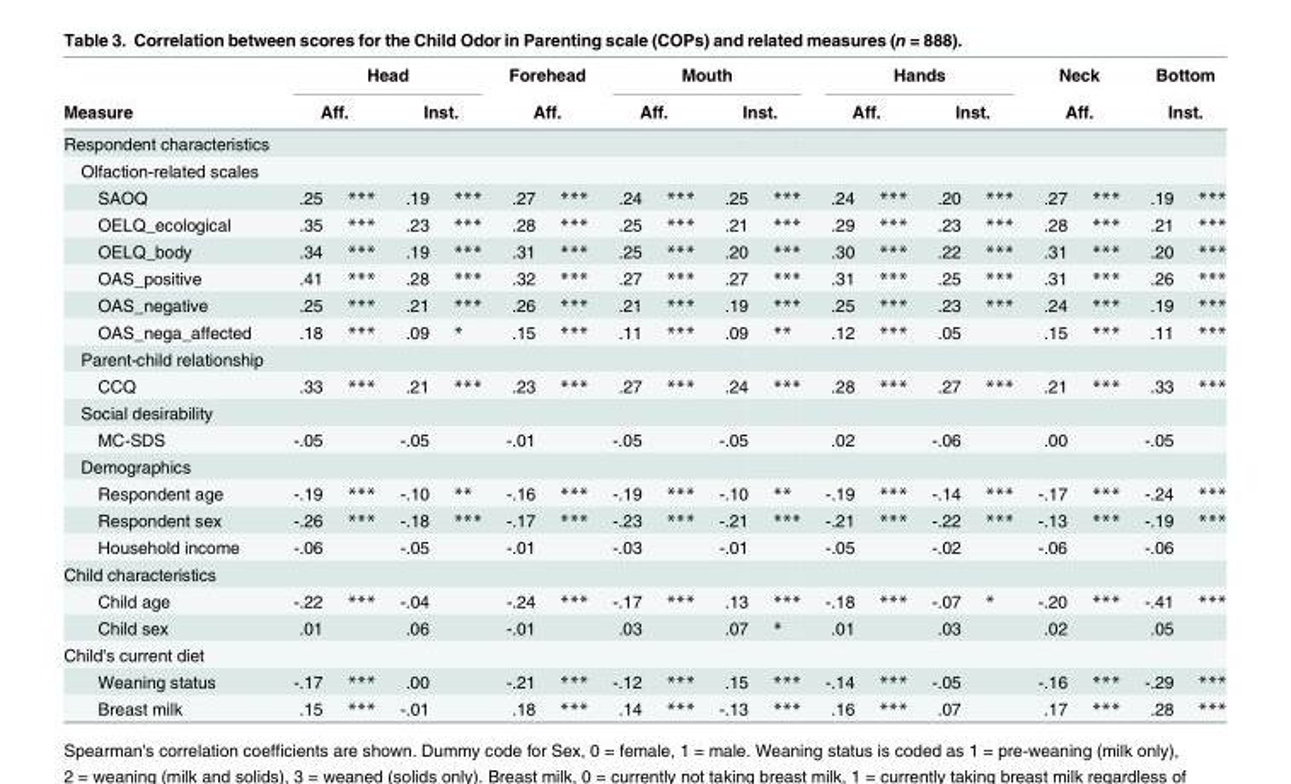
<table><thead><tr><td rowspan="3">Measure Respondent characteristics</td><td colspan="4">Head</td><td rowspan="2" colspan="2">Forehead Aff.</td><td colspan="4">Mouth</td><td colspan="4">Hands</td><td rowspan="2" colspan="2">Neck Aff.</td><td rowspan="2" colspan="2">Bottom Inst.</td></tr><tr><td colspan="2">Aff.</td><td colspan="2">Inst.</td><td colspan="2">Aff.</td><td colspan="2">Inst.</td><td colspan="2">Aff.</td><td colspan="2">Inst.</td></tr><tr><td></td><td></td><td></td><td></td><td></td><td></td><td></td><td></td><td></td><td></td><td></td><td></td><td></td><td></td><td></td><td></td><td></td><td></td></tr></thead><tbody><tr><td colspan="19">Olfaction-related scales</td></tr><tr><td>SAOQ</td><td>.25</td><td>***</td><td>.19</td><td>***</td><td>.27</td><td>***</td><td>.24</td><td>***</td><td>.25</td><td>***</td><td>.24</td><td>***</td><td>.20</td><td>***</td><td>.27</td><td>***</td><td>.19</td><td>***</td></tr><tr><td>OELQ_ecological</td><td>.35</td><td>***</td><td>.23</td><td>***</td><td>.28</td><td>***</td><td>.25</td><td>***</td><td>.21</td><td>***</td><td>.29</td><td>***</td><td>.23</td><td>***</td><td>.28</td><td>***</td><td>.21</td><td>***</td></tr><tr><td>OELQ_body</td><td>.34</td><td>***</td><td>.19</td><td>***</td><td>.31</td><td>***</td><td>.25</td><td>***</td><td>.20</td><td>***</td><td>.30</td><td>***</td><td>.22</td><td>***</td><td>.31</td><td>***</td><td>.20</td><td>***</td></tr><tr><td>OAS_positive</td><td>.41</td><td>***</td><td>.28</td><td>***</td><td>.32</td><td>***</td><td>.27</td><td>***</td><td>.27</td><td>***</td><td>.31</td><td>***</td><td>.25</td><td>***</td><td>.31</td><td>***</td><td>.26</td><td>***</td></tr><tr><td>OAS_negative</td><td>.25</td><td>***</td><td>.21</td><td>***</td><td>.26</td><td>***</td><td>.21</td><td>***</td><td>.19</td><td>***</td><td>.25</td><td>***</td><td>.23</td><td>***</td><td>.24</td><td>***</td><td>.19</td><td>***</td></tr><tr><td>OAS_nega_affected</td><td>.18</td><td>***</td><td>.09</td><td>*</td><td>.15</td><td>***</td><td>.11</td><td>***</td><td>.09</td><td>**</td><td>.12</td><td>***</td><td>.05</td><td></td><td>.15</td><td>***</td><td>.11</td><td>***</td></tr><tr><td colspan="19">Parent-child relationship</td></tr><tr><td>CCQ</td><td>.33</td><td>***</td><td>.21</td><td>***</td><td>.23</td><td>***</td><td>.27</td><td>***</td><td>.24</td><td>***</td><td>.28</td><td>***</td><td>.27</td><td>***</td><td>.21</td><td>***</td><td>.33</td><td>***</td></tr><tr><td colspan="19">Social desirability</td></tr><tr><td>MC-SDS</td><td>-.05</td><td></td><td>-.05</td><td></td><td>-.01</td><td></td><td>-.05</td><td></td><td>-.05</td><td></td><td>.02</td><td></td><td>-.06</td><td></td><td>.00</td><td></td><td>-.05</td><td></td></tr><tr><td colspan="19">Demographics</td></tr><tr><td>Respondent age</td><td>-.19</td><td>***</td><td>-.10</td><td>**</td><td>-.16</td><td>***</td><td>-.19</td><td>***</td><td>-.10</td><td>**</td><td>-.19</td><td>***</td><td>-.14</td><td>***</td><td>-.17</td><td>***</td><td>-.24</td><td>***</td></tr><tr><td>Respondent sex</td><td>-.26</td><td>***</td><td>-.18</td><td>***</td><td>-.17</td><td>***</td><td>-.23</td><td>***</td><td>-.21</td><td>***</td><td>-.21</td><td>***</td><td>-.22</td><td>***</td><td>-.13</td><td>***</td><td>-.19</td><td>***</td></tr><tr><td>Household income</td><td>-.06</td><td></td><td>-.05</td><td></td><td>-.01</td><td></td><td>-.03</td><td></td><td>-.01</td><td></td><td>-.05</td><td></td><td>-.02</td><td></td><td>-.06</td><td></td><td>-.06</td><td></td></tr><tr><td colspan="19">Child characteristics</td></tr><tr><td>Child age</td><td>-.22</td><td>***</td><td>-.04</td><td></td><td>-.24</td><td>***</td><td>-.17</td><td>***</td><td>.13</td><td>***</td><td>-.18</td><td>***</td><td>-.07</td><td>*</td><td>-.20</td><td>***</td><td>-.41</td><td>***</td></tr><tr><td>Child sex</td><td>.01</td><td></td><td>.06</td><td></td><td>-.01</td><td></td><td>.03</td><td></td><td>.07</td><td>*</td><td>.01</td><td></td><td>.03</td><td></td><td>.02</td><td></td><td>.05</td><td></td></tr><tr><td colspan="19">Child&#x27;s current diet</td></tr><tr><td>Weaning status</td><td>-.17</td><td>***</td><td>.00</td><td></td><td>-.21</td><td>***</td><td>-.12</td><td>***</td><td>.15</td><td>***</td><td>-.14</td><td>***</td><td>-.05</td><td></td><td>-.16</td><td>***</td><td>-.29</td><td>***</td></tr><tr><td>Breast milk</td><td>.15</td><td>***</td><td>-.01</td><td></td><td>.18</td><td>***</td><td>.14</td><td>***</td><td>-.13</td><td>***</td><td>.16</td><td>***</td><td>.07</td><td></td><td>.17</td><td>***</td><td>.28</td><td>***</td></tr></tbody></table>